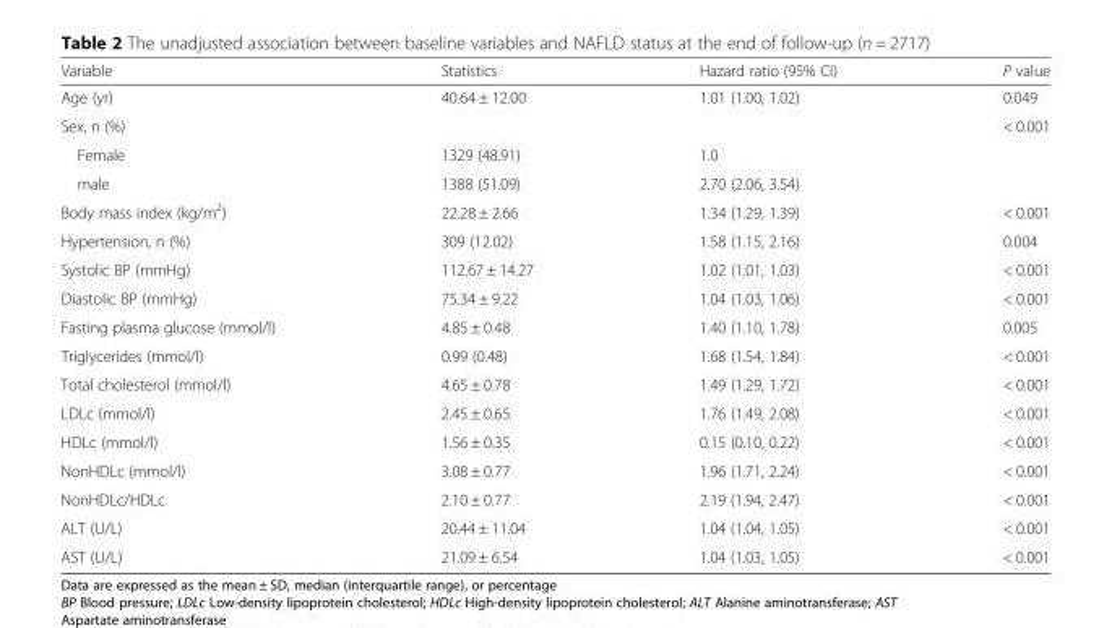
<table><thead><tr><td>Variable</td><td>Statistics</td><td>Hazard ratio (95% CI)</td><td>P value</td></tr></thead><tbody><tr><td>Age (yr)</td><td>40.64 ± 12.00</td><td>1.01 (1.00, 1.02)</td><td>0.049</td></tr><tr><td>Sex, n (%)</td><td></td><td></td><td>&lt; 0.001</td></tr><tr><td>Female</td><td>1329 (48.91)</td><td>1.0</td><td></td></tr><tr><td>male</td><td>1388 (51.09)</td><td>2.70 (2.06, 3.54)</td><td></td></tr><tr><td>Body mass index (kg/m<sup>2</sup>)</td><td>22.28 ± 2.66</td><td>1.34 (1.29, 1.39)</td><td>&lt; 0.001</td></tr><tr><td>Hypertension, n (%)</td><td>309 (12.02)</td><td>1.58 (1.15, 2.16)</td><td>0.004</td></tr><tr><td>Systolic BP (mmHg)</td><td>112.67 ± 14.27</td><td>1.02 (1.01, 1.03)</td><td>&lt; 0.001</td></tr><tr><td>Diastolic BP (mmHg)</td><td>75.34 ± 9.22</td><td>1.04 (1.03, 1.06)</td><td>&lt; 0.001</td></tr><tr><td>Fasting plasma glucose (mmol/l)</td><td>4.85 ± 0.48</td><td>1.40 (1.10, 1.78)</td><td>0.005</td></tr><tr><td>Triglycerides (mmol/l)</td><td>0.99 (0.48)</td><td>1.68 (1.54, 1.84)</td><td>&lt; 0.001</td></tr><tr><td>Total cholesterol (mmol/l)</td><td>4.65 ± 0.78</td><td>1.49 (1.29, 1.72)</td><td>&lt; 0.001</td></tr><tr><td>LDLc (mmol/l)</td><td>2.45 ± 0.65</td><td>1.76 (1.49, 2.08)</td><td>&lt; 0.001</td></tr><tr><td>HDLc (mmol/l)</td><td>1.56 ± 0.35</td><td>0.15 (0.10, 0.22)</td><td>&lt; 0.001</td></tr><tr><td>NonHDLc (mmol/l)</td><td>3.08 ± 0.77</td><td>1.96 (1.71, 2.24)</td><td>&lt; 0.001</td></tr><tr><td>NonHDLc/HDLc</td><td>2.10 ± 0.77</td><td>2.19 (1.94, 2.47)</td><td>&lt; 0.001</td></tr><tr><td>ALT (U/L)</td><td>20.44 ± 11.04</td><td>1.04 (1.04, 1.05)</td><td>&lt; 0.001</td></tr><tr><td>AST (U/L)</td><td>21.09 ± 6.54</td><td>1.04 (1.03, 1.05)</td><td>&lt; 0.001</td></tr></tbody></table>